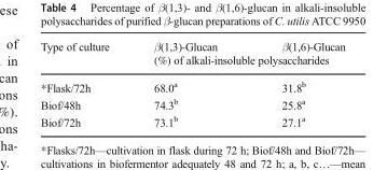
<table><thead><tr><td rowspan="2">Type of culture</td><td>β(1,3)-Glucan</td><td>β(1,6)-Glucan</td></tr><tr><td colspan="2">(%) of alkali-insoluble polysaccharides</td></tr></thead><tbody><tr><td>*Flask/72h</td><td>68.0<sup>a</sup></td><td>31.8<sup>b</sup></td></tr><tr><td>Biof/48h</td><td>74.3<sup>b</sup></td><td>25.8<sup>a</sup></td></tr><tr><td>Biof/72h</td><td>73.1<sup>b</sup></td><td>27.1<sup>a</sup></td></tr></tbody></table>